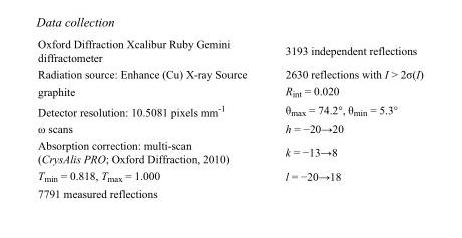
<table><tbody><tr><td>Oxford Diffraction Xcalibur Ruby Gemini diffractometer</td><td>3193 independent reflections</td></tr><tr><td>Radiation source: Enhance (Cu) X-ray Source</td><td>2630 reflections with I &gt; 2σ(I)</td></tr><tr><td>graphite</td><td>R<sub>int</sub> = 0.020</td></tr><tr><td>Detector resolution: 10.5081 pixels mm<sup>-1</sup></td><td>θ<sub>max</sub> = 74.2°, θ<sub>min</sub> = 5.3°</td></tr><tr><td>ω scans</td><td>h = −20→20</td></tr><tr><td>Absorption correction: multi-scan (CrysAlis PRO; Oxford Diffraction, 2010)</td><td>k = −13→8</td></tr><tr><td>T<sub>min</sub> = 0.818, T<sub>max</sub> = 1.000</td><td>l = −20→18</td></tr><tr><td>7791 measured reflections</td><td></td></tr></tbody></table>